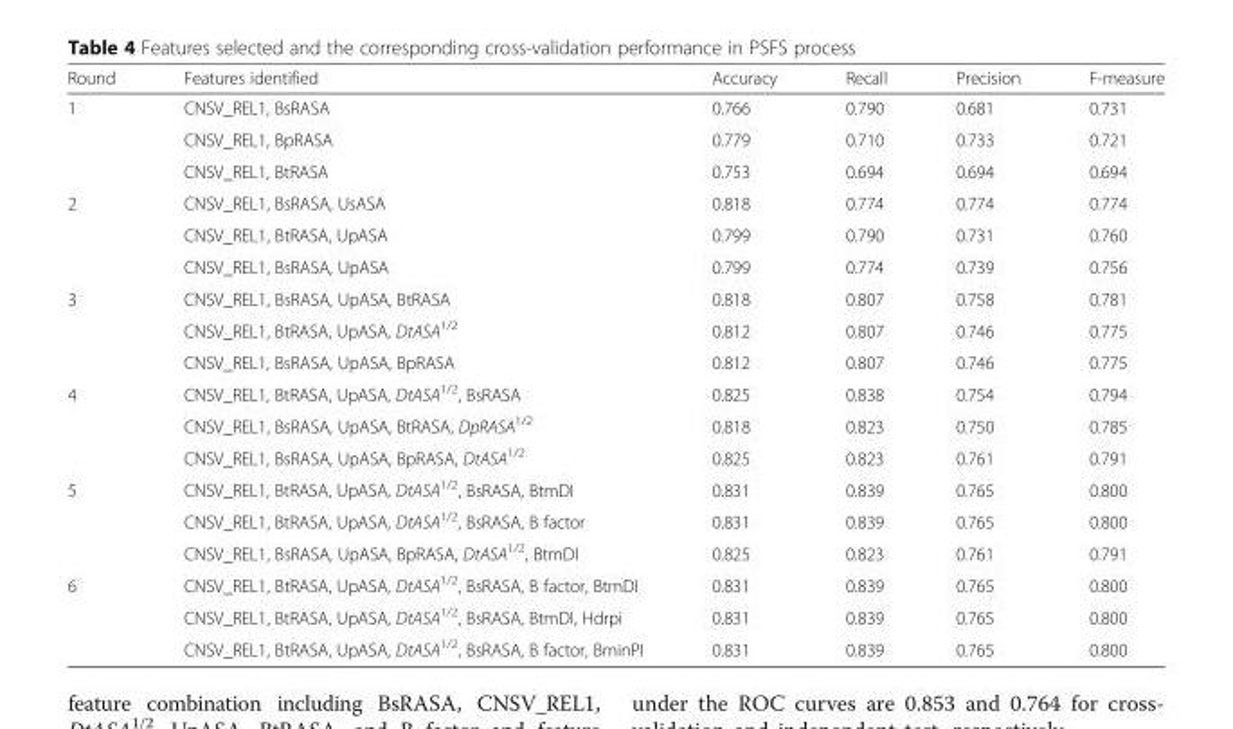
<table><thead><tr><td>Round</td><td>Features identified</td><td>Accuracy</td><td>Recall</td><td>Precision</td><td>F-measure</td></tr></thead><tbody><tr><td rowspan="3">1</td><td>CNSV_REL1, BsRASA</td><td>0.766</td><td>0.790</td><td>0.681</td><td>0.731</td></tr><tr><td>CNSV_REL1, BpRASA</td><td>0.779</td><td>0.710</td><td>0.733</td><td>0.721</td></tr><tr><td>CNSV_REL1, BtRASA</td><td>0.753</td><td>0.694</td><td>0.694</td><td>0.694</td></tr><tr><td rowspan="3">2</td><td>CNSV_REL1, BsRASA, UsASA</td><td>0.818</td><td>0.774</td><td>0.774</td><td>0.774</td></tr><tr><td>CNSV_REL1, BtRASA, UpASA</td><td>0.799</td><td>0.790</td><td>0.731</td><td>0.760</td></tr><tr><td>CNSV_REL1, BsRASA, UpASA</td><td>0.799</td><td>0.774</td><td>0.739</td><td>0.756</td></tr><tr><td rowspan="3">3</td><td>CNSV_REL1, BsRASA, UpASA, BtRASA</td><td>0.818</td><td>0.807</td><td>0.758</td><td>0.781</td></tr><tr><td>CNSV_REL1, BtRASA, UpASA, DtASA<sup>1/2</sup></td><td>0.812</td><td>0.807</td><td>0.746</td><td>0.775</td></tr><tr><td>CNSV_REL1, BsRASA, UpASA, BpRASA</td><td>0.812</td><td>0.807</td><td>0.746</td><td>0.775</td></tr><tr><td rowspan="3">4</td><td>CNSV_REL1, BtRASA, UpASA, DtASA<sup>1/2</sup>, BsRASA</td><td>0.825</td><td>0.838</td><td>0.754</td><td>0.794</td></tr><tr><td>CNSV_REL1, BsRASA, UpASA, BtRASA, DpRASA<sup>1/2</sup></td><td>0.818</td><td>0.823</td><td>0.750</td><td>0.785</td></tr><tr><td>CNSV_REL1, BsRASA, UpASA, BpRASA, DtASA<sup>1/2</sup></td><td>0.825</td><td>0.823</td><td>0.761</td><td>0.791</td></tr><tr><td rowspan="3">5</td><td>CNSV_REL1, BtRASA, UpASA, DtASA<sup>1/2</sup>, BsRASA, BtmDI</td><td>0.831</td><td>0.839</td><td>0.765</td><td>0.800</td></tr><tr><td>CNSV_REL1, BtRASA, UpASA, DtASA<sup>1/2</sup>, BsRASA, B factor</td><td>0.831</td><td>0.839</td><td>0.765</td><td>0.800</td></tr><tr><td>CNSV_REL1, BsRASA, UpASA, BpRASA, DtASA<sup>1/2</sup>, BtmDI</td><td>0.825</td><td>0.823</td><td>0.761</td><td>0.791</td></tr><tr><td rowspan="3">6</td><td>CNSV_REL1, BtRASA, UpASA, DtASA<sup>1/2</sup>, BsRASA, B factor, BtmDI</td><td>0.831</td><td>0.839</td><td>0.765</td><td>0.800</td></tr><tr><td>CNSV_REL1, BtRASA, UpASA, DtASA<sup>1/2</sup>, BsRASA, BtmDI, Hdrpi</td><td>0.831</td><td>0.839</td><td>0.765</td><td>0.800</td></tr><tr><td>CNSV_REL1, BtRASA, UpASA, DtASA<sup>1/2</sup>, BsRASA, B factor, BminPI</td><td>0.831</td><td>0.839</td><td>0.765</td><td>0.800</td></tr></tbody></table>